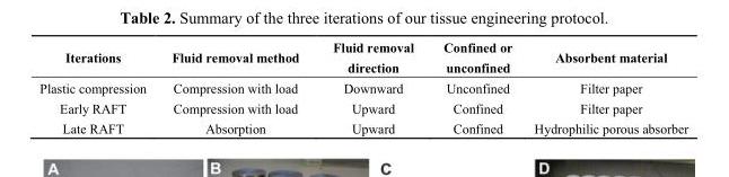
<table><thead><tr><td>Iterations</td><td>Fluid removal method</td><td>Fluid removal direction</td><td>Confined or unconfined</td><td>Absorbent material</td></tr></thead><tbody><tr><td>Plastic compression</td><td>Compression with load</td><td>Downward</td><td>Unconfined</td><td>Filter paper</td></tr><tr><td>Early RAFT</td><td>Compression with load</td><td>Upward</td><td>Confined</td><td>Filter paper</td></tr><tr><td>Late RAFT</td><td>Absorption</td><td>Upward</td><td>Confined</td><td>Hydrophilic porous absorber</td></tr></tbody></table>